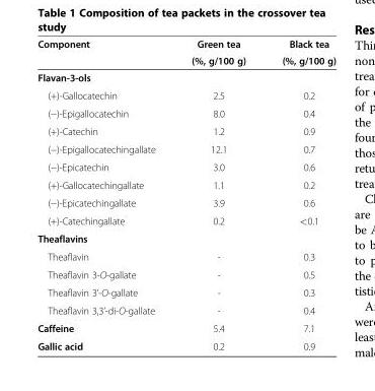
<table><thead><tr><td rowspan="2">Component</td><td rowspan="2">Green tea (%, g/100 g)</td><td rowspan="2">Black tea (%, g/100 g)</td></tr><tr></tr></thead><tbody><tr><td colspan="3">Flavan-3-ols</td></tr><tr><td>(+)-Gallocatechin</td><td>2.5</td><td>0.2</td></tr><tr><td>(−)-Epigallocatechin</td><td>8.0</td><td>0.4</td></tr><tr><td>(+)-Catechin</td><td>1.2</td><td>0.9</td></tr><tr><td>(−)-Epigallocatechingallate</td><td>12.1</td><td>0.7</td></tr><tr><td>(−)-Epicatechin</td><td>3.0</td><td>0.6</td></tr><tr><td>(+)-Gallocatechingallate</td><td>1.1</td><td>0.2</td></tr><tr><td>(−)-Epicatechingallate</td><td>3.9</td><td>0.6</td></tr><tr><td>(+)-Catechingallate</td><td>0.2</td><td>&lt;0.1</td></tr><tr><td colspan="3">Theaflavins</td></tr><tr><td>Theaflavin</td><td>-</td><td>0.3</td></tr><tr><td>Theaflavin 3-O-gallate</td><td>-</td><td>0.5</td></tr><tr><td>Theaflavin 3’-O-gallate</td><td>-</td><td>0.3</td></tr><tr><td>Theaflavin 3,3’-di-O-gallate</td><td>-</td><td>0.4</td></tr><tr><td>Caffeine</td><td>5.4</td><td>7.1</td></tr><tr><td>Gallic acid</td><td>0.2</td><td>0.9</td></tr></tbody></table>